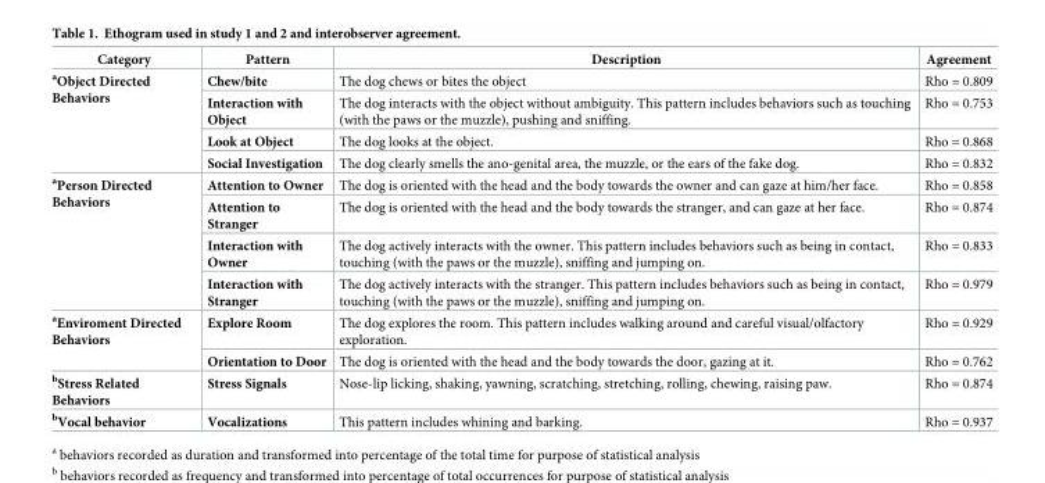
<table><thead><tr><td>Category</td><td>Pattern</td><td>Description</td><td>Agreement</td></tr></thead><tbody><tr><td rowspan="4"><sup>a</sup>Object Directed Behaviors</td><td>Chew/bite</td><td>The dog chews or bites the object</td><td>Rho = 0.809</td></tr><tr><td>Interaction with Object</td><td>The dog interacts with the object without ambiguity. This pattern includes behaviors such as touching (with the paws or the muzzle), pushing and sniffing.</td><td>Rho = 0.753</td></tr><tr><td>Look at Object</td><td>The dog looks at the object.</td><td>Rho = 0.868</td></tr><tr><td>Social Investigation</td><td>The dog clearly smells the ano-genital area, the muzzle, or the ears of the fake dog.</td><td>Rho = 0.832</td></tr><tr><td rowspan="4"><sup>a</sup>Person Directed Behaviors</td><td>Attention to Owner</td><td>The dog is oriented with the head and the body towards the owner and can gaze at him/her face.</td><td>Rho = 0.858</td></tr><tr><td>Attention to Stranger</td><td>The dog is oriented with the head and the body towards the stranger, and can gaze at her face.</td><td>Rho = 0.874</td></tr><tr><td>Interaction with Owner</td><td>The dog actively interacts with the owner. This pattern includes behaviors such as being in contact, touching (with the paws or the muzzle), sniffing and jumping on.</td><td>Rho = 0.833</td></tr><tr><td>Interaction with Stranger</td><td>The dog actively interacts with the stranger. This pattern includes behaviors such as being in contact, touching (with the paws or the muzzle), sniffing and jumping on.</td><td>Rho = 0.979</td></tr><tr><td rowspan="2"><sup>a</sup>Enviroment Directed Behaviors</td><td>Explore Room</td><td>The dog explores the room. This pattern includes walking around and careful visual/olfactory exploration.</td><td>Rho = 0.929</td></tr><tr><td>Orientation to Door</td><td>The dog is oriented with the head and the body towards the door, gazing at it.</td><td>Rho = 0.762</td></tr><tr><td><sup>b</sup>Stress Related Behaviors</td><td>Stress Signals</td><td>Nose-lip licking, shaking, yawning, scratching, stretching, rolling, chewing, raising paw.</td><td>Rho = 0.874</td></tr><tr><td><sup>b</sup>Vocal behavior</td><td>Vocalizations</td><td>This pattern includes whining and barking.</td><td>Rho = 0.937</td></tr></tbody></table>